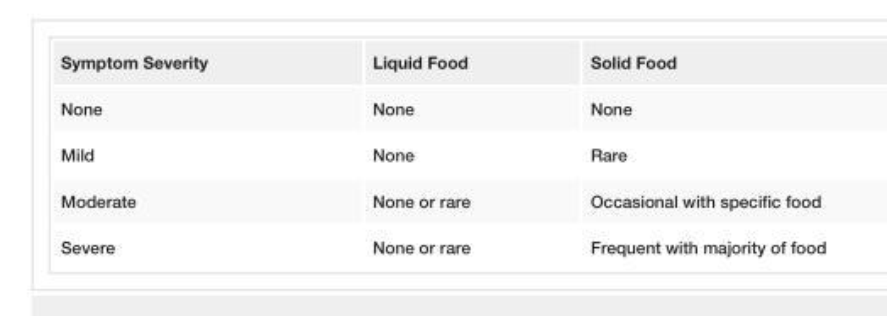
<table><tbody><tr><td>Symptom Severity</td><td>Liquid Food</td><td>Solid Food</td></tr><tr><td>None</td><td>None</td><td>None</td></tr><tr><td>Mild</td><td>None</td><td>Rare</td></tr><tr><td>Moderate</td><td>None or rare</td><td>Occasional with specific food</td></tr><tr><td>Severe</td><td>None or rare</td><td>Frequent with majority of food</td></tr></tbody></table>